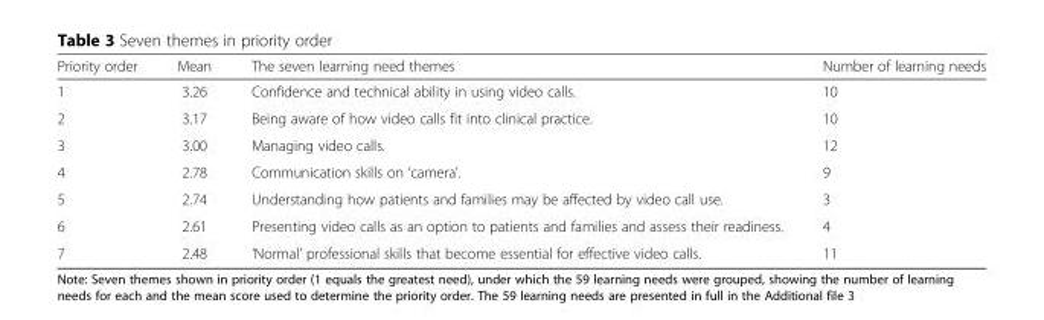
<table><thead><tr><td>Priority order</td><td>Mean</td><td>The seven learning need themes</td><td>Number of learning needs</td></tr></thead><tbody><tr><td>1</td><td>3.26</td><td>Confidence and technical ability in using video calls.</td><td>10</td></tr><tr><td>2</td><td>3.17</td><td>Being aware of how video calls fit into clinical practice.</td><td>10</td></tr><tr><td>3</td><td>3.00</td><td>Managing video calls.</td><td>12</td></tr><tr><td>4</td><td>2.78</td><td>Communication skills on ‘camera’.</td><td>9</td></tr><tr><td>5</td><td>2.74</td><td>Understanding how patients and families may be affected by video call use.</td><td>3</td></tr><tr><td>6</td><td>2.61</td><td>Presenting video calls as an option to patients and families and assess their readiness.</td><td>4</td></tr><tr><td>7</td><td>2.48</td><td>‘Normal’ professional skills that become essential for effective video calls.</td><td>11</td></tr></tbody></table>